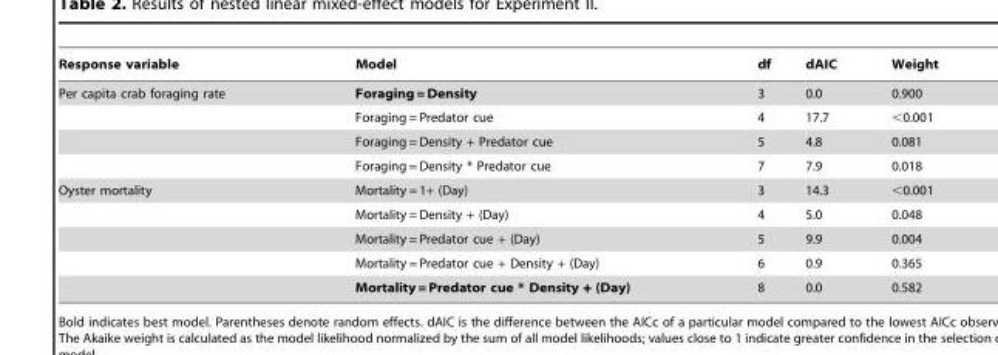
<table><thead><tr><td>Response variable</td><td>Model</td><td>df</td><td>dAIC</td><td>Weight</td></tr></thead><tbody><tr><td rowspan="4">Per capita crab foraging rate</td><td>Foraging = Density</td><td>3</td><td>0.0</td><td>0.900</td></tr><tr><td>Foraging = Predator cue</td><td>4</td><td>17.7</td><td>&lt;0.001</td></tr><tr><td>Foraging = Density + Predator cue</td><td>5</td><td>4.8</td><td>0.081</td></tr><tr><td>Foraging = Density * Predator cue</td><td>7</td><td>7.9</td><td>0.018</td></tr><tr><td rowspan="5">Oyster mortality</td><td>Mortality = 1+ (Day)</td><td>3</td><td>14.3</td><td>&lt;0.001</td></tr><tr><td>Mortality = Density + (Day)</td><td>4</td><td>5.0</td><td>0.048</td></tr><tr><td>Mortality = Predator cue + (Day)</td><td>5</td><td>9.9</td><td>0.004</td></tr><tr><td>Mortality = Predator cue + Density + (Day)</td><td>6</td><td>0.9</td><td>0.365</td></tr><tr><td>Mortality = Predator cue * Density + (Day)</td><td>8</td><td>0.0</td><td>0.582</td></tr></tbody></table>